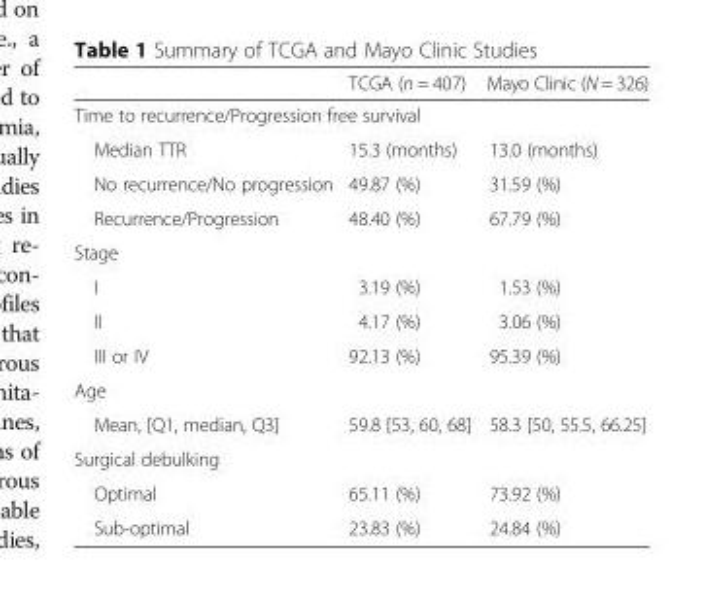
<table><thead><tr><td></td><td>TCGA (n = 407)</td><td>Mayo Clinic (N = 326)</td></tr></thead><tbody><tr><td colspan="3">Time to recurrence/Progression free survival</td></tr><tr><td>Median TTR</td><td>15.3 (months)</td><td>13.0 (months)</td></tr><tr><td>No recurrence/No progression</td><td>49.87 (%)</td><td>31.59 (%)</td></tr><tr><td>Recurrence/Progression</td><td>48.40 (%)</td><td>67.79 (%)</td></tr><tr><td colspan="3">Stage</td></tr><tr><td>I</td><td>3.19 (%)</td><td>1.53 (%)</td></tr><tr><td>II</td><td>4.17 (%)</td><td>3.06 (%)</td></tr><tr><td>III or IV</td><td>92.13 (%)</td><td>95.39 (%)</td></tr><tr><td colspan="3">Age</td></tr><tr><td>Mean, [Q1, median, Q3]</td><td>59.8 [53, 60, 68]</td><td>58.3 [50, 55.5, 66.25]</td></tr><tr><td colspan="3">Surgical debulking</td></tr><tr><td>Optimal</td><td>65.11 (%)</td><td>73.92 (%)</td></tr><tr><td>Sub-optimal</td><td>23.83 (%)</td><td>24.84 (%)</td></tr></tbody></table>